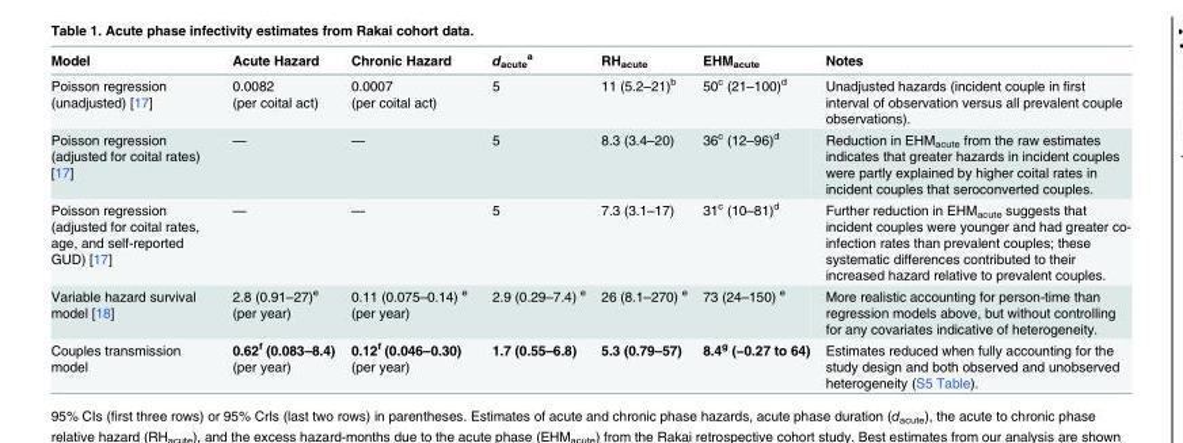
<table><thead><tr><td>Model</td><td>Acute Hazard</td><td>Chronic Hazard</td><td>d<sub>acute</sub> <sup>a</sup></td><td>RH<sub>acute</sub></td><td>EHM<sub>acute</sub></td><td>Notes</td></tr></thead><tbody><tr><td>Poisson regression (unadjusted) [17]</td><td>0.0082 (per coital act)</td><td>0.0007 (per coital act)</td><td>5</td><td>11 (5.2–21)<sup>b</sup></td><td>50<sup>c</sup> (21–100)<sup>d</sup></td><td>Unadjusted hazards (incident couple in first interval of observation versus all prevalent couple observations).</td></tr><tr><td>Poisson regression (adjusted for coital rates) [17]</td><td>—</td><td>—</td><td>5</td><td>8.3 (3.4–20)</td><td>36<sup>c</sup> (12–96)<sup>d</sup></td><td>Reduction in EHM<sub>acute</sub> from the raw estimates indicates that greater hazards in incident couples were partly explained by higher coital rates in incident couples that seroconverted couples.</td></tr><tr><td>Poisson regression (adjusted for coital rates, age, and self-reported GUD) [17]</td><td>—</td><td>—</td><td>5</td><td>7.3 (3.1–17)</td><td>31<sup>c</sup> (10–81)<sup>d</sup></td><td>Further reduction in EHM<sub>acute</sub> suggests that incident couples were younger and had greater co- infection rates than prevalent couples; these systematic differences contributed to their increased hazard relative to prevalent couples.</td></tr><tr><td>Variable hazard survival model [18]</td><td>2.8 (0.91–27)<sup>e</sup> (per year)</td><td>0.11 (0.075–0.14) <sup>e</sup> (per year)</td><td>2.9 (0.29–7.4) <sup>e</sup></td><td>26 (8.1–270) <sup>e</sup></td><td>73 (24–150) <sup>e</sup></td><td>More realistic accounting for person-time than regression models above, but without controlling for any covariates indicative of heterogeneity.</td></tr><tr><td>Couples transmission model</td><td>0.62<sup>f</sup> (0.083–8.4) (per year)</td><td>0.12<sup>f</sup> (0.046–0.30) (per year)</td><td>1.7 (0.55–6.8)</td><td>5.3 (0.79–57)</td><td>8.4<sup>g</sup> (−0.27 to 64)</td><td>Estimates reduced when fully accounting for the study design and both observed and unobserved heterogeneity (S5 Table).</td></tr></tbody></table>